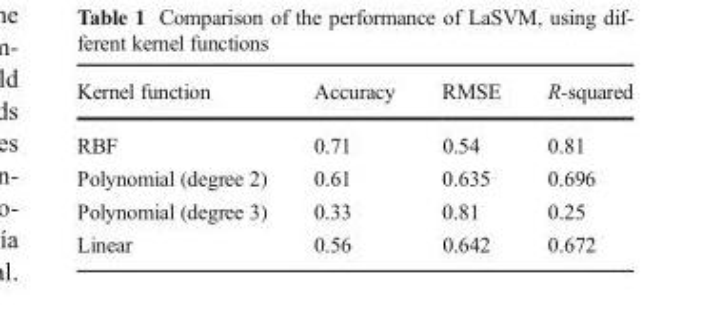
<table><thead><tr><td>Kernel function</td><td>Accuracy</td><td>RMSE</td><td>R-squared</td></tr></thead><tbody><tr><td>RBF</td><td>0.71</td><td>0.54</td><td>0.81</td></tr><tr><td>Polynomial (degree 2)</td><td>0.61</td><td>0.635</td><td>0.696</td></tr><tr><td>Polynomial (degree 3)</td><td>0.33</td><td>0.81</td><td>0.25</td></tr><tr><td>Linear</td><td>0.56</td><td>0.642</td><td>0.672</td></tr></tbody></table>